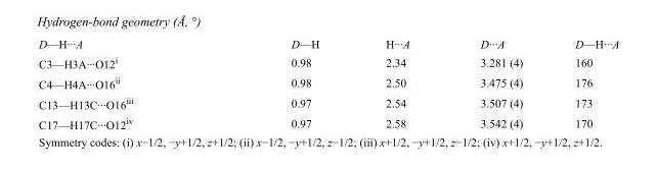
<table><tbody><tr><td>D—H···A</td><td>D—H</td><td>H···A</td><td>D···A</td><td>D—H···A</td></tr><tr><td>C3—H3A···O12<sup>i</sup></td><td>0.98</td><td>2.34</td><td>3.281 (4)</td><td>160</td></tr><tr><td>C4—H4A···O16<sup>ii</sup></td><td>0.98</td><td>2.50</td><td>3.475 (4)</td><td>176</td></tr><tr><td>C13—H13C···O16<sup>iii</sup></td><td>0.97</td><td>2.54</td><td>3.507 (4)</td><td>173</td></tr><tr><td>C17—H17C···O12<sup>iv</sup></td><td>0.97</td><td>2.58</td><td>3.542 (4)</td><td>170</td></tr></tbody></table>